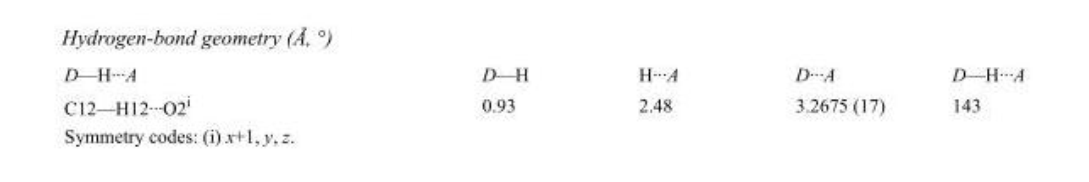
<table><tbody><tr><td>D—H···A</td><td>D—H</td><td>H···A</td><td>D···A</td><td>D—H···A</td></tr><tr><td>C12—H12···O2<sup>i</sup></td><td>0.93</td><td>2.48</td><td>3.2675 (17)</td><td>143</td></tr></tbody></table>